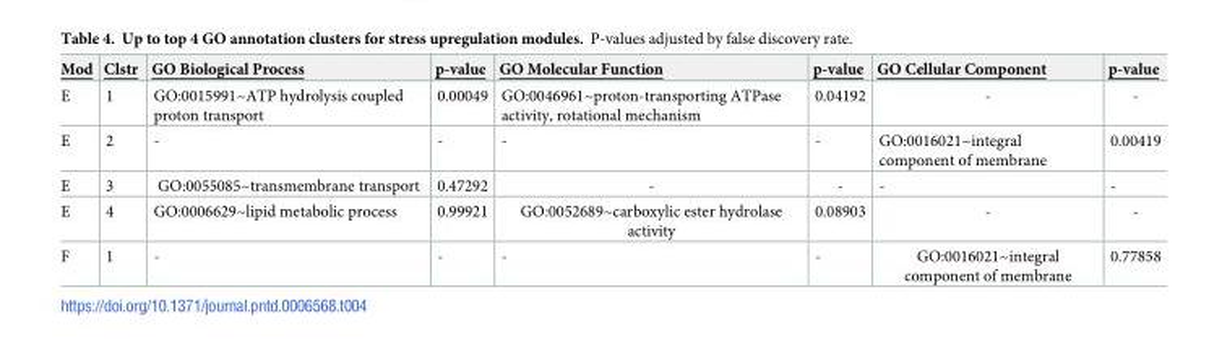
<table><thead><tr><td>Mod</td><td>Clstr</td><td>GO Biological Process</td><td>p-value</td><td>GO Molecular Function</td><td>p-value</td><td>GO Cellular Component</td><td>p-value</td></tr></thead><tbody><tr><td>E</td><td>1</td><td>GO:0015991~ATP hydrolysis coupled proton transport</td><td>0.00049</td><td>GO:0046961~proton-transporting ATPase activity, rotational mechanism</td><td>0.04192</td><td>-</td><td>-</td></tr><tr><td>E</td><td>2</td><td>-</td><td>-</td><td>-</td><td>-</td><td>GO:0016021~integral component of membrane</td><td>0.00419</td></tr><tr><td>E</td><td>3</td><td>GO:0055085~transmembrane transport</td><td>0.47292</td><td>-</td><td>-</td><td>-</td><td>-</td></tr><tr><td>E</td><td>4</td><td>GO:0006629~lipid metabolic process</td><td>0.99921</td><td>GO:0052689~carboxylic ester hydrolase activity</td><td>0.08903</td><td>-</td><td>-</td></tr><tr><td>F</td><td>1</td><td>-</td><td>-</td><td>-</td><td>-</td><td>GO:0016021~integral component of membrane</td><td>0.77858</td></tr></tbody></table>